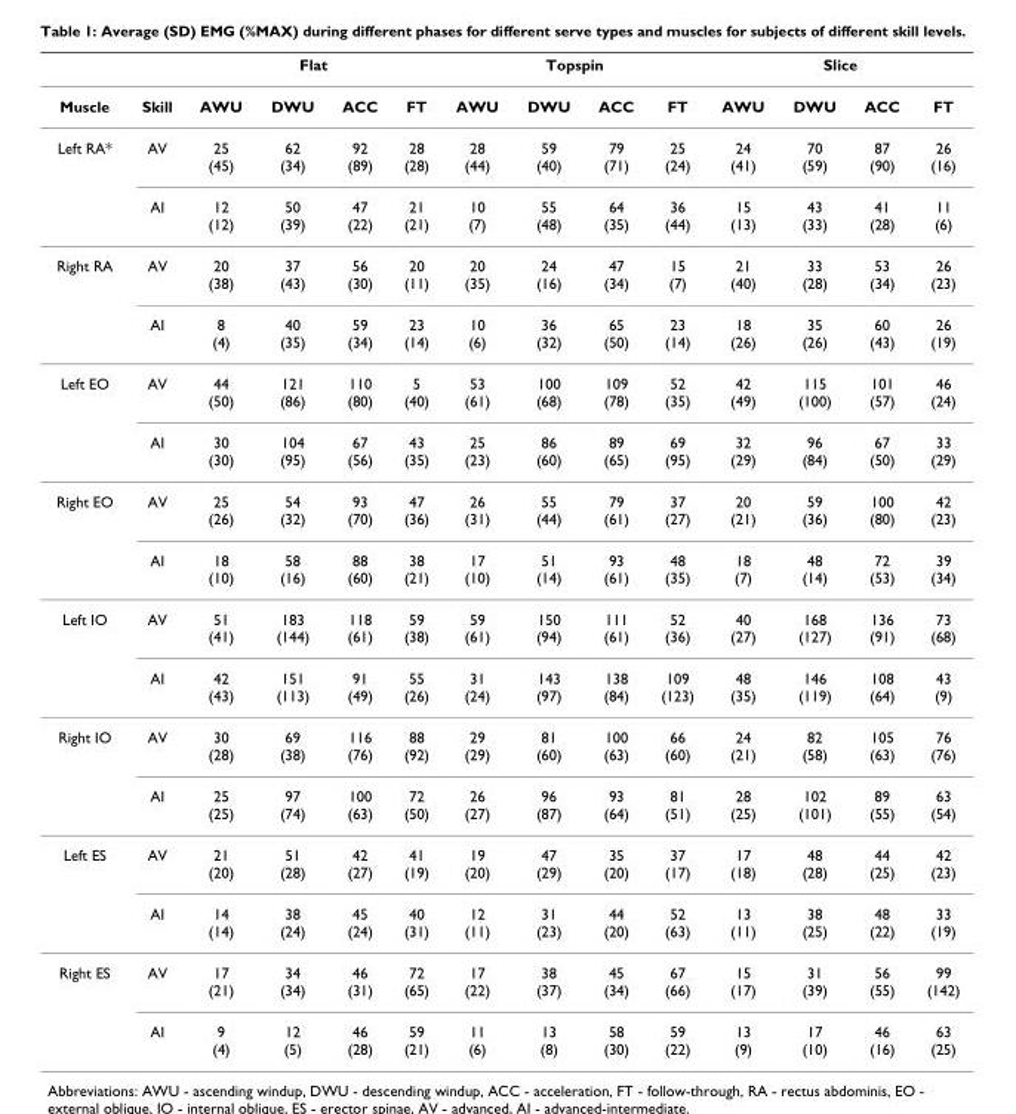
<table><thead><tr><td rowspan="2">Muscle</td><td rowspan="2">Skill</td><td colspan="4">Flat</td><td colspan="4">Topspin</td><td colspan="4">Slice</td></tr><tr><td>AWU</td><td>DWU</td><td>ACC</td><td>FT</td><td>AWU</td><td>DWU</td><td>ACC</td><td>FT</td><td>AWU</td><td>DWU</td><td>ACC</td><td>FT</td></tr></thead><tbody><tr><td rowspan="2">Left RA*</td><td>AV</td><td>25 (45)</td><td>62 (34)</td><td>92 (89)</td><td>28 (28)</td><td>28 (44)</td><td>59 (40)</td><td>79 (71)</td><td>25 (24)</td><td>24 (41)</td><td>70 (59)</td><td>87 (90)</td><td>26 (16)</td></tr><tr><td>AI</td><td>12 (12)</td><td>50 (39)</td><td>47 (22)</td><td>21 (21)</td><td>10 (7)</td><td>55 (48)</td><td>64 (35)</td><td>36 (44)</td><td>15 (13)</td><td>43 (33)</td><td>41 (28)</td><td>11 (6)</td></tr><tr><td rowspan="2">Right RA</td><td>AV</td><td>20 (38)</td><td>37 (43)</td><td>56 (30)</td><td>20 (11)</td><td>20 (35)</td><td>24 (16)</td><td>47 (34)</td><td>15 (7)</td><td>21 (40)</td><td>33 (28)</td><td>53 (34)</td><td>26 (23)</td></tr><tr><td>AI</td><td>8 (4)</td><td>40 (35)</td><td>59 (34)</td><td>23 (14)</td><td>10 (6)</td><td>36 (32)</td><td>65 (50)</td><td>23 (14)</td><td>18 (26)</td><td>35 (26)</td><td>60 (43)</td><td>26 (19)</td></tr><tr><td rowspan="2">Left EO</td><td>AV</td><td>44 (50)</td><td>121 (86)</td><td>110 (80)</td><td>5 (40)</td><td>53 (61)</td><td>100 (68)</td><td>109 (78)</td><td>52 (35)</td><td>42 (49)</td><td>115 (100)</td><td>101 (57)</td><td>46 (24)</td></tr><tr><td>AI</td><td>30 (30)</td><td>104 (95)</td><td>67 (56)</td><td>43 (35)</td><td>25 (23)</td><td>86 (60)</td><td>89 (65)</td><td>69 (95)</td><td>32 (29)</td><td>96 (84)</td><td>67 (50)</td><td>33 (29)</td></tr><tr><td rowspan="2">Right EO</td><td>AV</td><td>25 (26)</td><td>54 (32)</td><td>93 (70)</td><td>47 (36)</td><td>26 (31)</td><td>55 (44)</td><td>79 (61)</td><td>37 (27)</td><td>20 (21)</td><td>59 (36)</td><td>100 (80)</td><td>42 (23)</td></tr><tr><td>AI</td><td>18 (10)</td><td>58 (16)</td><td>88 (60)</td><td>38 (21)</td><td>17 (10)</td><td>51 (14)</td><td>93 (61)</td><td>48 (35)</td><td>18 (7)</td><td>48 (14)</td><td>72 (53)</td><td>39 (34)</td></tr><tr><td rowspan="2">Left IO</td><td>AV</td><td>51 (41)</td><td>183 (144)</td><td>118 (61)</td><td>59 (38)</td><td>59 (61)</td><td>150 (94)</td><td>111 (61)</td><td>52 (36)</td><td>40 (27)</td><td>168 (127)</td><td>136 (91)</td><td>73 (68)</td></tr><tr><td>AI</td><td>42 (43)</td><td>151 (113)</td><td>91 (49)</td><td>55 (26)</td><td>31 (24)</td><td>143 (97)</td><td>138 (84)</td><td>109 (123)</td><td>48 (35)</td><td>146 (119)</td><td>108 (64)</td><td>43 (9)</td></tr><tr><td rowspan="2">Right IO</td><td>AV</td><td>30 (28)</td><td>69 (38)</td><td>116 (76)</td><td>88 (92)</td><td>29 (29)</td><td>81 (60)</td><td>100 (63)</td><td>66 (60)</td><td>24 (21)</td><td>82 (58)</td><td>105 (63)</td><td>76 (76)</td></tr><tr><td>AI</td><td>25 (25)</td><td>97 (74)</td><td>100 (63)</td><td>72 (50)</td><td>26 (27)</td><td>96 (87)</td><td>93 (64)</td><td>81 (51)</td><td>28 (25)</td><td>102 (101)</td><td>89 (55)</td><td>63 (54)</td></tr><tr><td rowspan="2">Left ES</td><td>AV</td><td>21 (20)</td><td>51 (28)</td><td>42 (27)</td><td>41 (19)</td><td>19 (20)</td><td>47 (29)</td><td>35 (20)</td><td>37 (17)</td><td>17 (18)</td><td>48 (28)</td><td>44 (25)</td><td>42 (23)</td></tr><tr><td>AI</td><td>14 (14)</td><td>38 (24)</td><td>45 (24)</td><td>40 (31)</td><td>12 (11)</td><td>31 (23)</td><td>44 (20)</td><td>52 (63)</td><td>13 (11)</td><td>38 (25)</td><td>48 (22)</td><td>33 (19)</td></tr><tr><td rowspan="2">Right ES</td><td>AV</td><td>17 (21)</td><td>34 (34)</td><td>46 (31)</td><td>72 (65)</td><td>17 (22)</td><td>38 (37)</td><td>45 (34)</td><td>67 (66)</td><td>15 (17)</td><td>31 (39)</td><td>56 (55)</td><td>99 (142)</td></tr><tr><td>AI</td><td>9 (4)</td><td>12 (5)</td><td>46 (28)</td><td>59 (21)</td><td>11 (6)</td><td>13 (8)</td><td>58 (30)</td><td>59 (22)</td><td>13 (9)</td><td>17 (10)</td><td>46 (16)</td><td>63 (25)</td></tr></tbody></table>